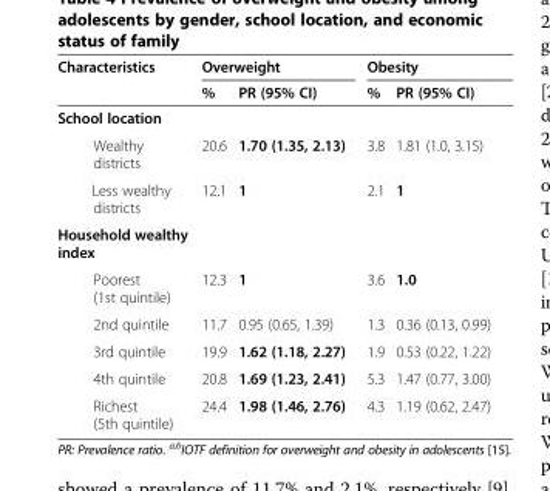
<table><thead><tr><td rowspan="2">Characteristics</td><td colspan="2">Overweight</td><td colspan="2">Obesity</td></tr><tr><td>%</td><td>PR (95% CI)</td><td>%</td><td>PR (95% CI)</td></tr></thead><tbody><tr><td colspan="5">School location</td></tr><tr><td>Wealthy districts</td><td>20.6</td><td>1.70 (1.35, 2.13)</td><td>3.8</td><td>1.81 (1.0, 3.15)</td></tr><tr><td>Less wealthy districts</td><td>12.1</td><td>1</td><td>2.1</td><td>1</td></tr><tr><td colspan="5">Household wealthy index</td></tr><tr><td>Poorest (1st quintile)</td><td>12.3</td><td>1</td><td>3.6</td><td>1.0</td></tr><tr><td>2nd quintile</td><td>11.7</td><td>0.95 (0.65, 1.39)</td><td>1.3</td><td>0.36 (0.13, 0.99)</td></tr><tr><td>3rd quintile</td><td>19.9</td><td>1.62 (1.18, 2.27)</td><td>1.9</td><td>0.53 (0.22, 1.22)</td></tr><tr><td>4th quintile</td><td>20.8</td><td>1.69 (1.23, 2.41)</td><td>5.3</td><td>1.47 (0.77, 3.00)</td></tr><tr><td>Richest (5th quintile)</td><td>24.4</td><td>1.98 (1.46, 2.76)</td><td>4.3</td><td>1.19 (0.62, 2.47)</td></tr></tbody></table>